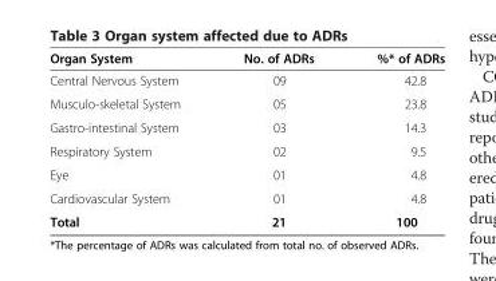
<table><thead><tr><td>Organ System</td><td>No. of ADRs</td><td>%* of ADRs</td></tr></thead><tbody><tr><td>Central Nervous System</td><td>09</td><td>42.8</td></tr><tr><td>Musculo-skeletal System</td><td>05</td><td>23.8</td></tr><tr><td>Gastro-intestinal System</td><td>03</td><td>14.3</td></tr><tr><td>Respiratory System</td><td>02</td><td>9.5</td></tr><tr><td>Eye</td><td>01</td><td>4.8</td></tr><tr><td>Cardiovascular System</td><td>01</td><td>4.8</td></tr><tr><td>Total</td><td>21</td><td>100</td></tr></tbody></table>